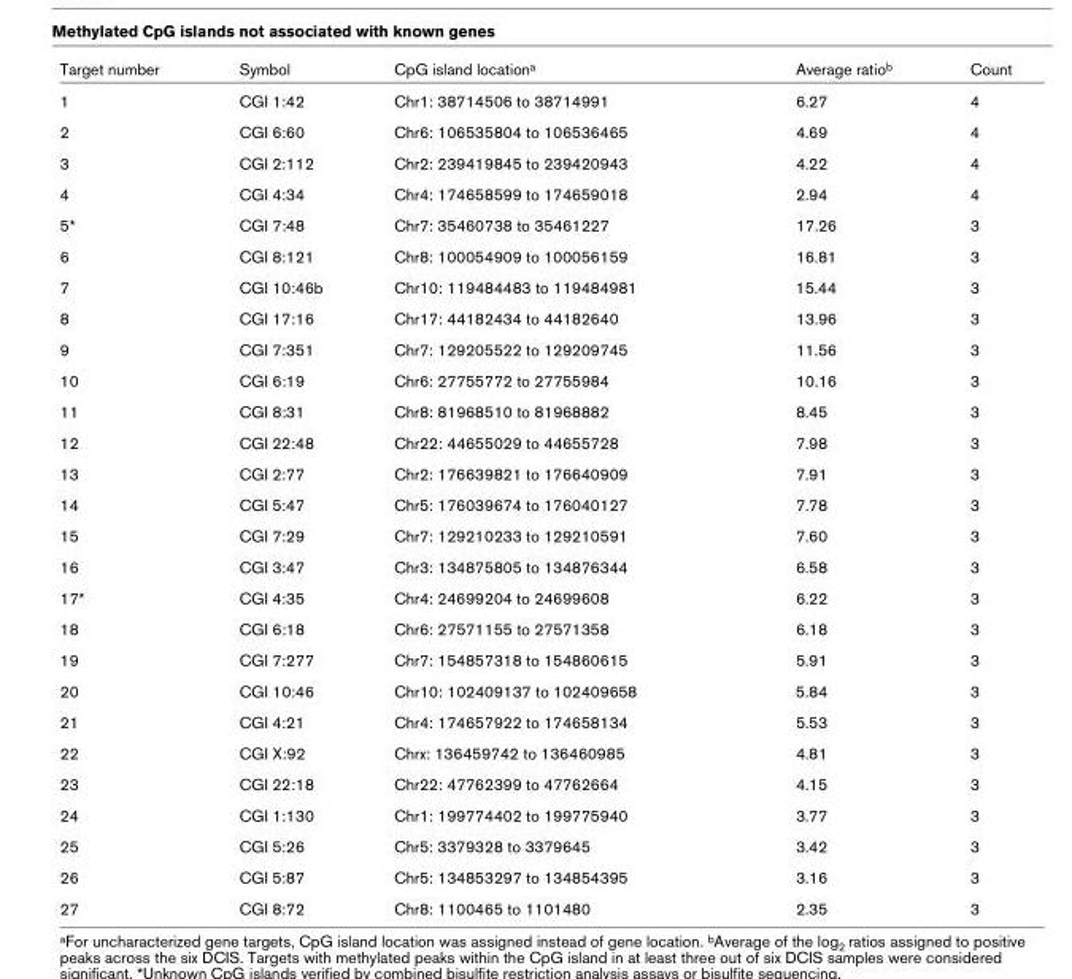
<table><thead><tr><td>Target number</td><td>Symbol</td><td>CpG island location<sup>a</sup></td><td>Average ratio<sup>b</sup></td><td>Count</td></tr></thead><tbody><tr><td>1</td><td>CGI 1:42</td><td>Chr1: 38714506 to 38714991</td><td>6.27</td><td>4</td></tr><tr><td>2</td><td>CGI 6:60</td><td>Chr6: 106535804 to 106536465</td><td>4.69</td><td>4</td></tr><tr><td>3</td><td>CGI 2:112</td><td>Chr2: 239419845 to 239420943</td><td>4.22</td><td>4</td></tr><tr><td>4</td><td>CGI 4:34</td><td>Chr4: 174658599 to 174659018</td><td>2.94</td><td>4</td></tr><tr><td>5*</td><td>CGI 7:48</td><td>Chr7: 35460738 to 35461227</td><td>17.26</td><td>3</td></tr><tr><td>6</td><td>CGI 8:121</td><td>Chr8: 100054909 to 100056159</td><td>16.81</td><td>3</td></tr><tr><td>7</td><td>CGI 10:46b</td><td>Chr10: 119484483 to 119484981</td><td>15.44</td><td>3</td></tr><tr><td>8</td><td>CGI 17:16</td><td>Chr17: 44182434 to 44182640</td><td>13.96</td><td>3</td></tr><tr><td>9</td><td>CGI 7:351</td><td>Chr7: 129205522 to 129209745</td><td>11.56</td><td>3</td></tr><tr><td>10</td><td>CGI 6:19</td><td>Chr6: 27755772 to 27755984</td><td>10.16</td><td>3</td></tr><tr><td>11</td><td>CGI 8:31</td><td>Chr8: 81968510 to 81968882</td><td>8.45</td><td>3</td></tr><tr><td>12</td><td>CGI 22:48</td><td>Chr22: 44655029 to 44655728</td><td>7.98</td><td>3</td></tr><tr><td>13</td><td>CGI 2:77</td><td>Chr2: 176639821 to 176640909</td><td>7.91</td><td>3</td></tr><tr><td>14</td><td>CGI 5:47</td><td>Chr5: 176039674 to 176040127</td><td>7.78</td><td>3</td></tr><tr><td>15</td><td>CGI 7:29</td><td>Chr7: 129210233 to 129210591</td><td>7.60</td><td>3</td></tr><tr><td>16</td><td>CGI 3:47</td><td>Chr3: 134875805 to 134876344</td><td>6.58</td><td>3</td></tr><tr><td>17*</td><td>CGI 4:35</td><td>Chr4: 24699204 to 24699608</td><td>6.22</td><td>3</td></tr><tr><td>18</td><td>CGI 6:18</td><td>Chr6: 27571155 to 27571358</td><td>6.18</td><td>3</td></tr><tr><td>19</td><td>CGI 7:277</td><td>Chr7: 154857318 to 154860615</td><td>5.91</td><td>3</td></tr><tr><td>20</td><td>CGI 10:46</td><td>Chr10: 102409137 to 102409658</td><td>5.84</td><td>3</td></tr><tr><td>21</td><td>CGI 4:21</td><td>Chr4: 174657922 to 174658134</td><td>5.53</td><td>3</td></tr><tr><td>22</td><td>CGI X:92</td><td>Chrx: 136459742 to 136460985</td><td>4.81</td><td>3</td></tr><tr><td>23</td><td>CGI 22:18</td><td>Chr22: 47762399 to 47762664</td><td>4.15</td><td>3</td></tr><tr><td>24</td><td>CGI 1:130</td><td>Chr1: 199774402 to 199775940</td><td>3.77</td><td>3</td></tr><tr><td>25</td><td>CGI 5:26</td><td>Chr5: 3379328 to 3379645</td><td>3.42</td><td>3</td></tr><tr><td>26</td><td>CGI 5:87</td><td>Chr5: 134853297 to 134854395</td><td>3.16</td><td>3</td></tr><tr><td>27</td><td>CGI 8:72</td><td>Chr8: 1100465 to 1101480</td><td>2.35</td><td>3</td></tr></tbody></table>